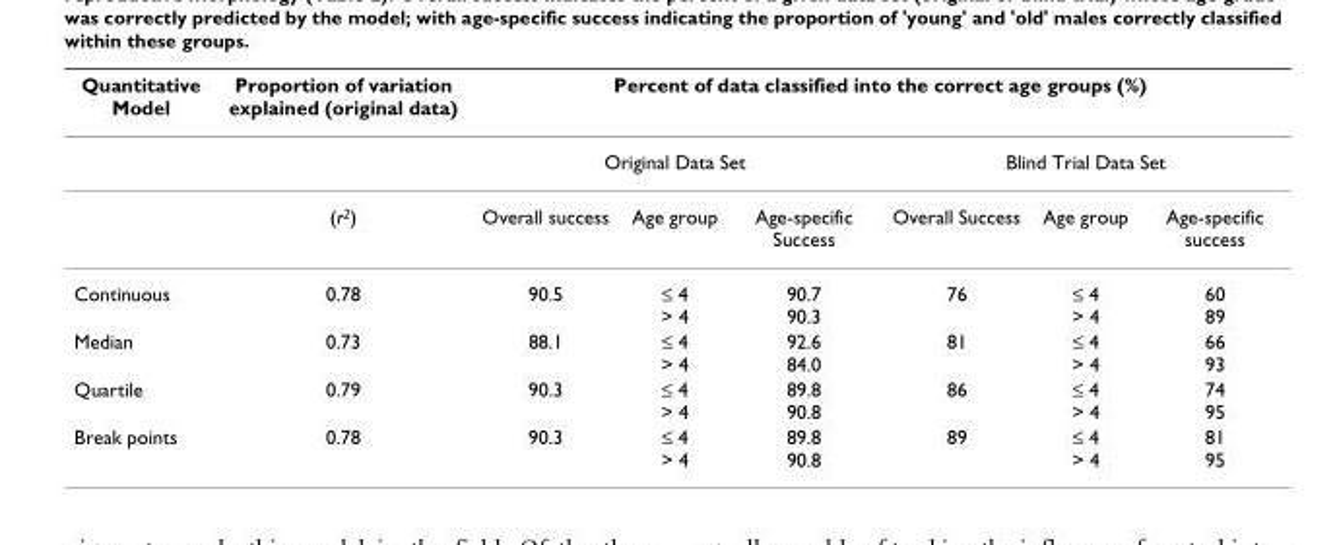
<table><thead><tr><td rowspan="3">Quantitative Model</td><td rowspan="3">Proportion of variation explained (original data) (r<sup>2</sup>)</td><td colspan="6">Percent of data classified into the correct age groups (%)</td></tr><tr><td colspan="3">Original Data Set</td><td colspan="3">Blind Trial Data Set</td></tr><tr><td>Overall success</td><td>Age group</td><td>Age-specific Success</td><td>Overall Success</td><td>Age group</td><td>Age-specific success</td></tr></thead><tbody><tr><td>Continuous</td><td>0.78</td><td>90.5</td><td>≤ 4 &gt; 4</td><td>90.7 90.3</td><td>76</td><td>≤ 4 &gt; 4</td><td>60 89</td></tr><tr><td>Median</td><td>0.73</td><td>88.1</td><td>≤ 4 &gt; 4</td><td>92.6 84.0</td><td>81</td><td>≤ 4 &gt; 4</td><td>66 93</td></tr><tr><td>Quartile</td><td>0.79</td><td>90.3</td><td>≤ 4 &gt; 4</td><td>89.8 90.8</td><td>86</td><td>≤ 4 &gt; 4</td><td>74 95</td></tr><tr><td>Break points</td><td>0.78</td><td>90.3</td><td>≤ 4 &gt; 4</td><td>89.8 90.8</td><td>89</td><td>≤ 4 &gt; 4</td><td>81 95</td></tr></tbody></table>